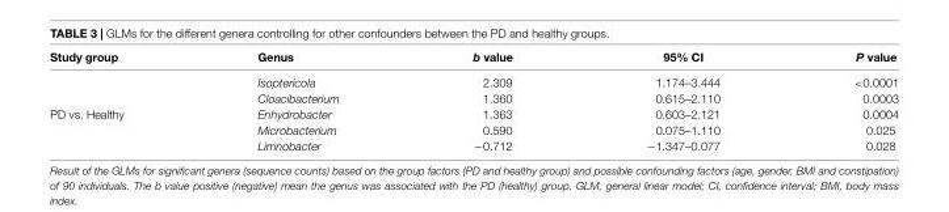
<table><thead><tr><td>Study group</td><td>Genus</td><td>b value</td><td>95% CI</td><td>P value</td></tr></thead><tbody><tr><td></td><td>Isoptericola</td><td>2.309</td><td>1.174–3.444</td><td>&lt;0.0001</td></tr><tr><td></td><td>Cloacibacterium</td><td>1.360</td><td>0.615–2.110</td><td>0.0003</td></tr><tr><td rowspan="3">PD vs. Healthy</td><td>Enhydrobacter</td><td>1.363</td><td>0.603–2.121</td><td>0.0004</td></tr><tr><td>Microbacterium</td><td>0.590</td><td>0.075–1.110</td><td>0.025</td></tr><tr><td>Limnobacter</td><td>−0.712</td><td>−1.347–0.077</td><td>0.028</td></tr></tbody></table>